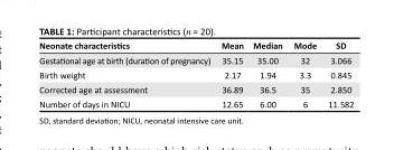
<table><thead><tr><td>Neonate characteristics</td><td>Mean</td><td>Median</td><td>Mode</td><td>SD</td></tr></thead><tbody><tr><td>Gestational age at birth (duration of pregnancy)</td><td>35.15</td><td>35.00</td><td>32</td><td>3.066</td></tr><tr><td>Birth weight</td><td>2.17</td><td>1.94</td><td>3.3</td><td>0.845</td></tr><tr><td>Corrected age at assessment</td><td>36.89</td><td>36.5</td><td>35</td><td>2.850</td></tr><tr><td>Number of days in NICU</td><td>12.65</td><td>6.00</td><td>6</td><td>11.582</td></tr></tbody></table>